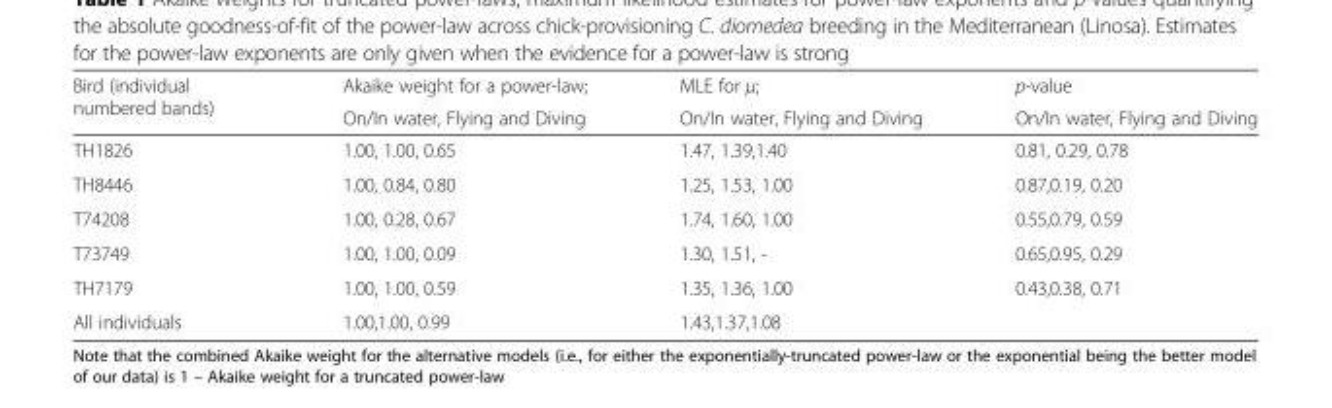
<table><thead><tr><td rowspan="2">Bird (individual numbered bands)</td><td rowspan="2">Akaike weight for a power-law; On/In water, Flying and Diving</td><td rowspan="2">MLE for μ; On/In water, Flying and Diving</td><td rowspan="2">p-value On/In water, Flying and Diving</td></tr><tr></tr></thead><tbody><tr><td>TH1826</td><td>1.00, 1.00, 0.65</td><td>1.47, 1.39,1.40</td><td>0.81, 0.29, 0.78</td></tr><tr><td>TH8446</td><td>1.00, 0.84, 0.80</td><td>1.25, 1.53, 1.00</td><td>0.87,0.19, 0.20</td></tr><tr><td>T74208</td><td>1.00, 0.28, 0.67</td><td>1.74, 1.60, 1.00</td><td>0.55,0.79, 0.59</td></tr><tr><td>T73749</td><td>1.00, 1.00, 0.09</td><td>1.30, 1.51, -</td><td>0.65,0.95, 0.29</td></tr><tr><td>TH7179</td><td>1.00, 1.00, 0.59</td><td>1.35, 1.36, 1.00</td><td>0.43,0.38, 0.71</td></tr><tr><td>All individuals</td><td>1.00,1.00, 0.99</td><td>1.43,1.37,1.08</td><td></td></tr></tbody></table>